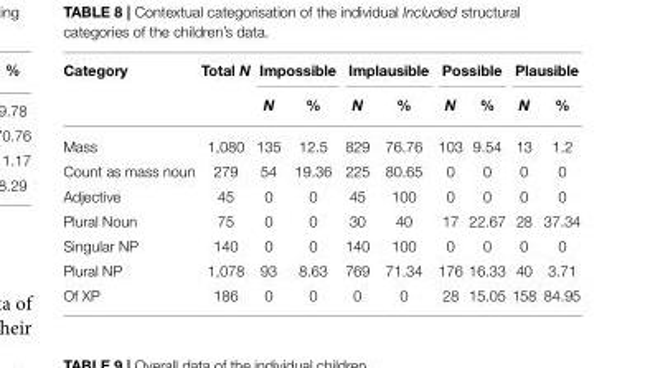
<table><thead><tr><td rowspan="2">Category</td><td rowspan="2">Total N</td><td colspan="2">Impossible</td><td colspan="2">Implausible</td><td colspan="2">Possible</td><td colspan="2">Plausible</td></tr><tr><td>N</td><td>%</td><td>N</td><td>%</td><td>N</td><td>%</td><td>N</td><td>%</td></tr></thead><tbody><tr><td>Mass</td><td>1,080</td><td>135</td><td>12.5</td><td>829</td><td>76.76</td><td>103</td><td>9.54</td><td>13</td><td>1.2</td></tr><tr><td>Count as mass noun</td><td>279</td><td>54</td><td>19.36</td><td>225</td><td>80.65</td><td>0</td><td>0</td><td>0</td><td>0</td></tr><tr><td>Adjective</td><td>45</td><td>0</td><td>0</td><td>45</td><td>100</td><td>0</td><td>0</td><td>0</td><td>0</td></tr><tr><td>Plural Noun</td><td>75</td><td>0</td><td>0</td><td>30</td><td>40</td><td>17</td><td>22.67</td><td>28</td><td>37.34</td></tr><tr><td>Singular NP</td><td>140</td><td>0</td><td>0</td><td>140</td><td>100</td><td>0</td><td>0</td><td>0</td><td>0</td></tr><tr><td>Plural NP</td><td>1,078</td><td>93</td><td>8.63</td><td>769</td><td>71.34</td><td>176</td><td>16.33</td><td>40</td><td>3.71</td></tr><tr><td>Of XP</td><td>186</td><td>0</td><td>0</td><td>0</td><td>0</td><td>28</td><td>15.05</td><td>158</td><td>84.95</td></tr></tbody></table>